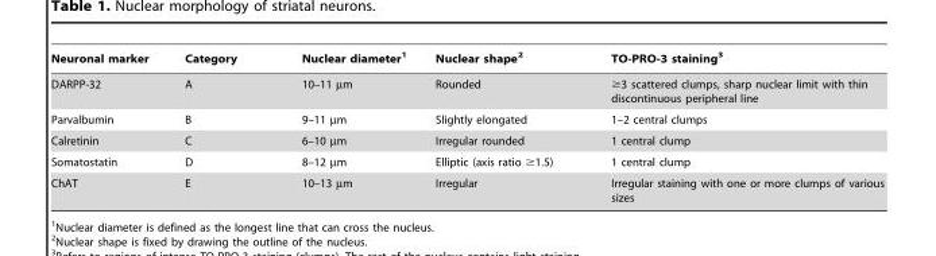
<table><thead><tr><td>Neuronal marker</td><td>Category</td><td>Nuclear diameter<sup>1</sup></td><td>Nuclear shape<sup>2</sup></td><td>TO-PRO-3 staining<sup>3</sup></td></tr></thead><tbody><tr><td>DARPP-32</td><td>A</td><td>10–11 µm</td><td>Rounded</td><td>≥3 scattered clumps, sharp nuclear limit with thin discontinuous peripheral line</td></tr><tr><td>Parvalbumin</td><td>B</td><td>9–11 µm</td><td>Slightly elongated</td><td>1–2 central clumps</td></tr><tr><td>Calretinin</td><td>C</td><td>6–10 µm</td><td>Irregular rounded</td><td>1 central clump</td></tr><tr><td>Somatostatin</td><td>D</td><td>8–12 µm</td><td>Elliptic (axis ratio ≥1.5)</td><td>1 central clump</td></tr><tr><td>ChAT</td><td>E</td><td>10–13 µm</td><td>Irregular</td><td>Irregular staining with one or more clumps of various sizes</td></tr></tbody></table>